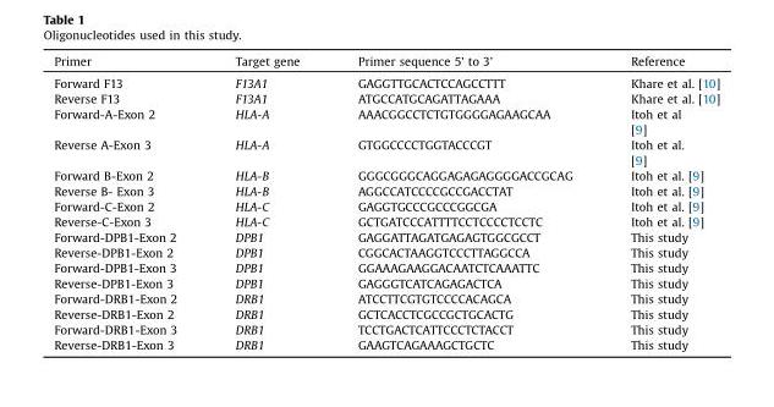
<table><thead><tr><td>Primer</td><td>Target gene</td><td>Primer sequence 5’ to 3’</td><td>Reference</td></tr></thead><tbody><tr><td>Forward F13</td><td>F13A1</td><td>GAGGTTGCACTCCAGCCTTT</td><td>Khare et al. [10]</td></tr><tr><td>Reverse F13</td><td>F13A1</td><td>ATGCCATGCAGATTAGAAA</td><td>Khare et al. [10]</td></tr><tr><td>Forward-A-Exon 2</td><td>HLA-A</td><td>AAACGGCCTCTGTGGGGAGAAGCAA</td><td>Itoh et al [9]</td></tr><tr><td>Reverse A-Exon 3</td><td>HLA-A</td><td>GTGGCCCCTGGTACCCGT</td><td>Itoh et al. [9]</td></tr><tr><td>Forward B-Exon 2</td><td>HLA-B</td><td>GGGCGGGCAGGAGAGAGGGGACCGCAG</td><td>Itoh et al. [9]</td></tr><tr><td>Reverse B- Exon 3</td><td>HLA-B</td><td>AGGCCATCCCCGCCGACCTAT</td><td>Itoh et al. [9]</td></tr><tr><td>Forward-C-Exon 2</td><td>HLA-C</td><td>GAGGTGCCCGCCCGGCGA</td><td>Itoh et al. [9]</td></tr><tr><td>Reverse-C-Exon 3</td><td>HLA-C</td><td>GCTGATCCCATTTTCCTCCCCTCCTC</td><td>Itoh et al. [9]</td></tr><tr><td>Forward-DPB1-Exon 2</td><td>DPB1</td><td>GAGGATTAGATGAGAGTGGCGCCT</td><td>This study</td></tr><tr><td>Reverse-DPB1-Exon 2</td><td>DPB1</td><td>CGGCACTAAGGTCCCTTAGGCCA</td><td>This study</td></tr><tr><td>Forward-DPB1-Exon 3</td><td>DPB1</td><td>GGAAAGAAGGACAATCTCAAATTC</td><td>This study</td></tr><tr><td>Reverse-DPB1-Exon 3</td><td>DPB1</td><td>GAGGGTCATCAGAGACTCA</td><td>This study</td></tr><tr><td>Forward-DRB1-Exon 2</td><td>DRB1</td><td>ATCCTTCGTGTCCCCACAGCA</td><td>This study</td></tr><tr><td>Reverse-DRB1-Exon 2</td><td>DRB1</td><td>GCTCACCTCGCCGCTGCACTG</td><td>This study</td></tr><tr><td>Forward-DRB1-Exon 3</td><td>DRB1</td><td>TCCTGACTCATTCCCTCTACCT</td><td>This study</td></tr><tr><td>Reverse-DRB1-Exon 3</td><td>DRB1</td><td>GAAGTCAGAAAGCTGCTC</td><td>This study</td></tr></tbody></table>